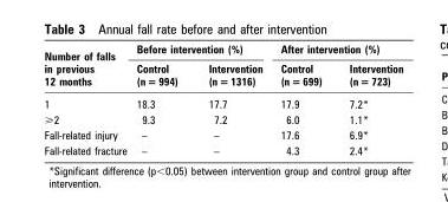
<table><thead><tr><td rowspan="2">Number of falls in previous 12 months</td><td colspan="2">Before intervention (%)</td><td colspan="2">After intervention (%)</td></tr><tr><td>Control (n = 994)</td><td>Intervention (n = 1316)</td><td>Control (n = 699)</td><td>Intervention (n = 723)</td></tr></thead><tbody><tr><td>1</td><td>18.3</td><td>17.7</td><td>17.9</td><td>7.2*</td></tr><tr><td>&gt;2</td><td>9.3</td><td>7.2</td><td>6.0</td><td>1.1*</td></tr><tr><td>Fall-related injury</td><td>–</td><td>–</td><td>17.6</td><td>6.9*</td></tr><tr><td>Fall-related fracture</td><td>–</td><td>–</td><td>4.3</td><td>2.4*</td></tr></tbody></table>